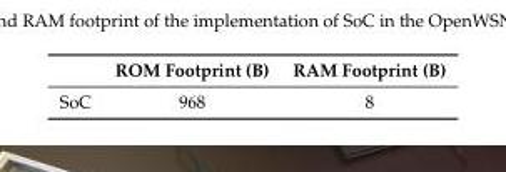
<table><thead><tr><td></td><td>ROM Footprint (B)</td><td>RAM Footprint (B)</td></tr></thead><tbody><tr><td>SoC</td><td>968</td><td>8</td></tr></tbody></table>